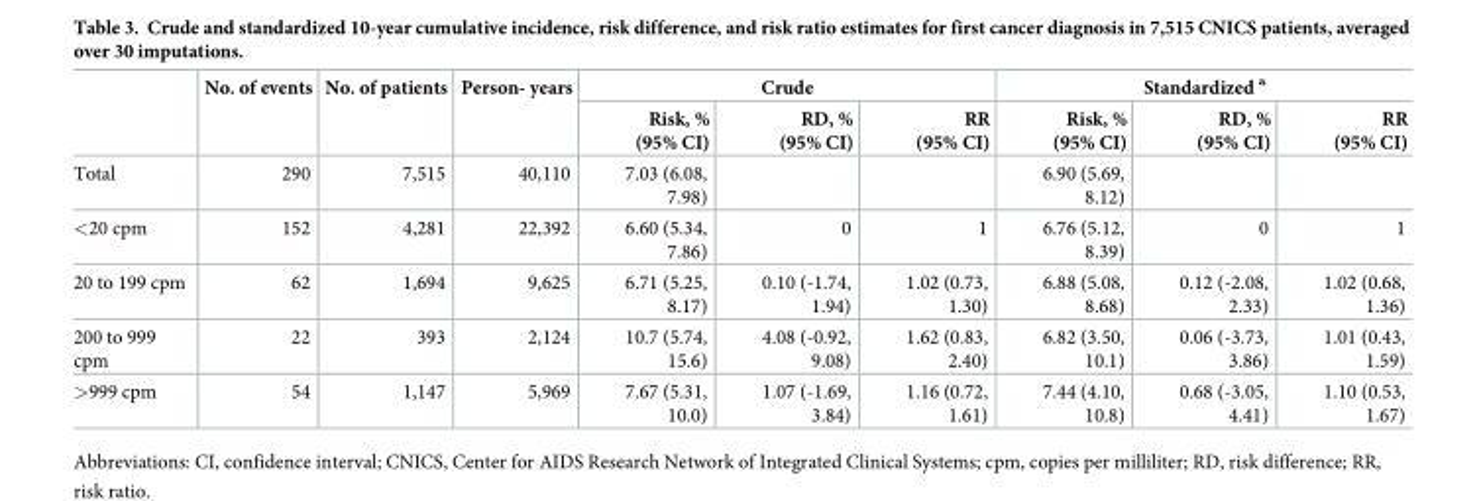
<table><thead><tr><td rowspan="2"></td><td rowspan="2">No. of events</td><td rowspan="2">No. of patients</td><td rowspan="2">Person- years</td><td colspan="3">Crude</td><td colspan="3">Standardized <sup>a</sup></td></tr><tr><td>Risk, % (95% CI)</td><td>RD, % (95% CI)</td><td>RR (95% CI)</td><td>Risk, % (95% CI)</td><td>RD, % (95% CI)</td><td>RR (95% CI)</td></tr></thead><tbody><tr><td>Total</td><td>290</td><td>7,515</td><td>40,110</td><td>7.03 (6.08, 7.98)</td><td></td><td></td><td>6.90 (5.69, 8.12)</td><td></td><td></td></tr><tr><td>&lt;20 cpm</td><td>152</td><td>4,281</td><td>22,392</td><td>6.60 (5.34, 7.86)</td><td>0</td><td>1</td><td>6.76 (5.12, 8.39)</td><td>0</td><td>1</td></tr><tr><td>20 to 199 cpm</td><td>62</td><td>1,694</td><td>9,625</td><td>6.71 (5.25, 8.17)</td><td>0.10 (-1.74, 1.94)</td><td>1.02 (0.73, 1.30)</td><td>6.88 (5.08, 8.68)</td><td>0.12 (-2.08, 2.33)</td><td>1.02 (0.68, 1.36)</td></tr><tr><td>200 to 999 cpm</td><td>22</td><td>393</td><td>2,124</td><td>10.7 (5.74, 15.6)</td><td>4.08 (-0.92, 9.08)</td><td>1.62 (0.83, 2.40)</td><td>6.82 (3.50, 10.1)</td><td>0.06 (-3.73, 3.86)</td><td>1.01 (0.43, 1.59)</td></tr><tr><td>&gt;999 cpm</td><td>54</td><td>1,147</td><td>5,969</td><td>7.67 (5.31, 10.0)</td><td>1.07 (-1.69, 3.84)</td><td>1.16 (0.72, 1.61)</td><td>7.44 (4.10, 10.8)</td><td>0.68 (-3.05, 4.41)</td><td>1.10 (0.53, 1.67)</td></tr></tbody></table>